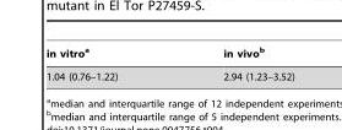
<table><thead><tr><td>in vitro<sup>a</sup></td><td>in vivo<sup>b</sup></td></tr></thead><tbody><tr><td>1.04 (0.76–1.22)</td><td>2.94 (1.23–3.52)</td></tr></tbody></table>